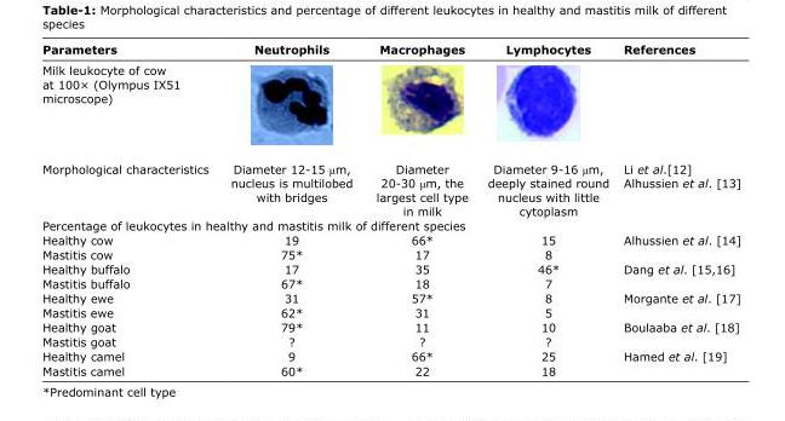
<table><thead><tr><td>Parameters</td><td>Neutrophils</td><td>Macrophages</td><td>Lymphocytes</td><td>References</td></tr></thead><tbody><tr><td colspan="5">Milk leukocyte of cow at 100× (Olympus IX51 microscope)</td></tr><tr><td>Morphological characteristics</td><td>Diameter 12-15 μm, nucleus is multilobed with bridges</td><td>Diameter 20-30 μm, the largest cell type in milk</td><td>Diameter 9-16 μm, deeply stained round nucleus with little cytoplasm</td><td>Li et al.[12] Alhussien et al. [13]</td></tr><tr><td colspan="5">Percentage of leukocytes in healthy and mastitis milk of different species</td></tr><tr><td>Healthy cow</td><td>19</td><td>66*</td><td>15</td><td rowspan="2">Alhussien et al. [14]</td></tr><tr><td>Mastitis cow</td><td>75*</td><td>17</td><td>8</td></tr><tr><td>Healthy buffalo</td><td>17</td><td>35</td><td>46*</td><td rowspan="2">Dang et al. [15,16]</td></tr><tr><td>Mastitis buffalo</td><td>67*</td><td>18</td><td>7</td></tr><tr><td>Healthy ewe</td><td>31</td><td>57*</td><td>8</td><td rowspan="2">Morgante et al. [17]</td></tr><tr><td>Mastitis ewe</td><td>62*</td><td>31</td><td>5</td></tr><tr><td>Healthy goat</td><td>79*</td><td>11</td><td>10</td><td rowspan="2">Boulaaba et al. [18]</td></tr><tr><td>Mastitis goat</td><td>?</td><td>?</td><td>?</td></tr><tr><td>Healthy camel</td><td>9</td><td>66*</td><td>25</td><td rowspan="2">Hamed et al. [19]</td></tr><tr><td>Mastitis camel</td><td>60*</td><td>22</td><td>18</td></tr></tbody></table>